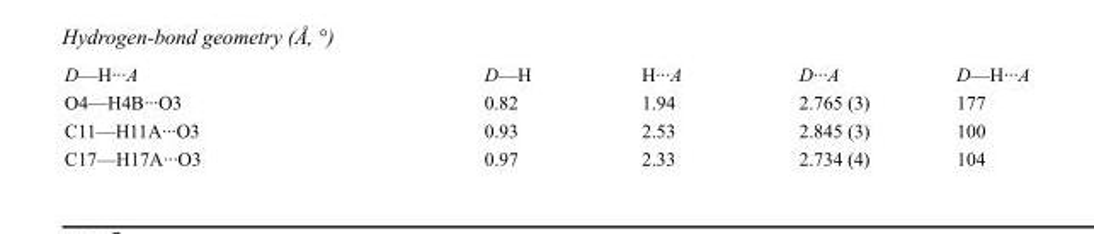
<table><tbody><tr><td>D—H···A</td><td>D—H</td><td>H···A</td><td>D···A</td><td>D—H···A</td></tr><tr><td>O4—H4B···O3</td><td>0.82</td><td>1.94</td><td>2.765 (3)</td><td>177</td></tr><tr><td>C11—H11A···O3</td><td>0.93</td><td>2.53</td><td>2.845 (3)</td><td>100</td></tr><tr><td>C17—H17A···O3</td><td>0.97</td><td>2.33</td><td>2.734 (4)</td><td>104</td></tr></tbody></table>